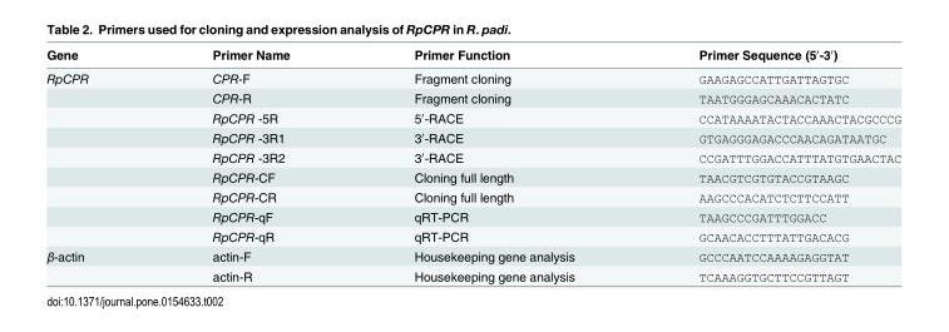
<table><thead><tr><td>Gene</td><td>Primer Name</td><td>Primer Function</td><td>Primer Sequence (5′-3′)</td></tr></thead><tbody><tr><td rowspan="9">RpCPR</td><td>CPR-F</td><td>Fragment cloning</td><td>GAAGAGCCATTGATTAGTGC</td></tr><tr><td>CPR-R</td><td>Fragment cloning</td><td>TAATGGGAGCAAACACTATC</td></tr><tr><td>RpCPR -5R</td><td>5′-RACE</td><td>CCATAAAATACTACCAAACTACGCCCG</td></tr><tr><td>RpCPR -3R1</td><td>3′-RACE</td><td>GTGAGGGAGACCCAACAGATAATGC</td></tr><tr><td>RpCPR -3R2</td><td>3′-RACE</td><td>CCGATTTGGACCATTTATGTGAACTAC</td></tr><tr><td>RpCPR-CF</td><td>Cloning full length</td><td>TAACGTCGTGTACCGTAAGC</td></tr><tr><td>RpCPR-CR</td><td>Cloning full length</td><td>AAGCCCACATCTCTTCCATT</td></tr><tr><td>RpCPR-qF</td><td>qRT-PCR</td><td>TAAGCCCGATTTGGACC</td></tr><tr><td>RpCPR-qR</td><td>qRT-PCR</td><td>GCAACACCTTTATTGACACG</td></tr><tr><td rowspan="2">β-actin</td><td>actin-F</td><td>Housekeeping gene analysis</td><td>GCCCAATCCAAAAGAGGTAT</td></tr><tr><td>actin-R</td><td>Housekeeping gene analysis</td><td>TCAAAGGTGCTTCCGTTAGT</td></tr></tbody></table>